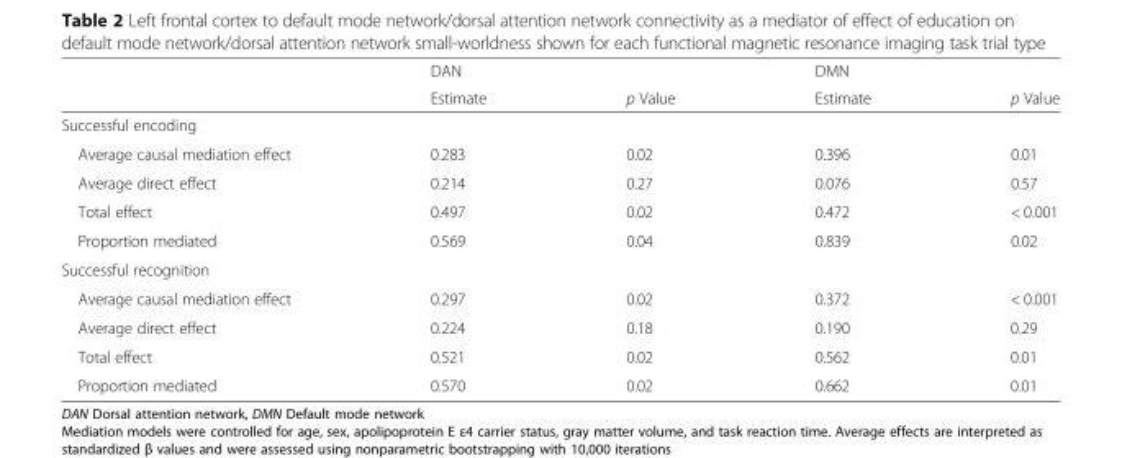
<table><thead><tr><td rowspan="2"></td><td rowspan="2">DAN Estimate</td><td rowspan="2">p Value</td><td rowspan="2">DMN Estimate</td><td rowspan="2">p Value</td></tr><tr></tr></thead><tbody><tr><td colspan="5">Successful encoding</td></tr><tr><td>Average causal mediation effect</td><td>0.283</td><td>0.02</td><td>0.396</td><td>0.01</td></tr><tr><td>Average direct effect</td><td>0.214</td><td>0.27</td><td>0.076</td><td>0.57</td></tr><tr><td>Total effect</td><td>0.497</td><td>0.02</td><td>0.472</td><td>&lt; 0.001</td></tr><tr><td>Proportion mediated</td><td>0.569</td><td>0.04</td><td>0.839</td><td>0.02</td></tr><tr><td colspan="5">Successful recognition</td></tr><tr><td>Average causal mediation effect</td><td>0.297</td><td>0.02</td><td>0.372</td><td>&lt; 0.001</td></tr><tr><td>Average direct effect</td><td>0.224</td><td>0.18</td><td>0.190</td><td>0.29</td></tr><tr><td>Total effect</td><td>0.521</td><td>0.02</td><td>0.562</td><td>0.01</td></tr><tr><td>Proportion mediated</td><td>0.570</td><td>0.02</td><td>0.662</td><td>0.01</td></tr></tbody></table>